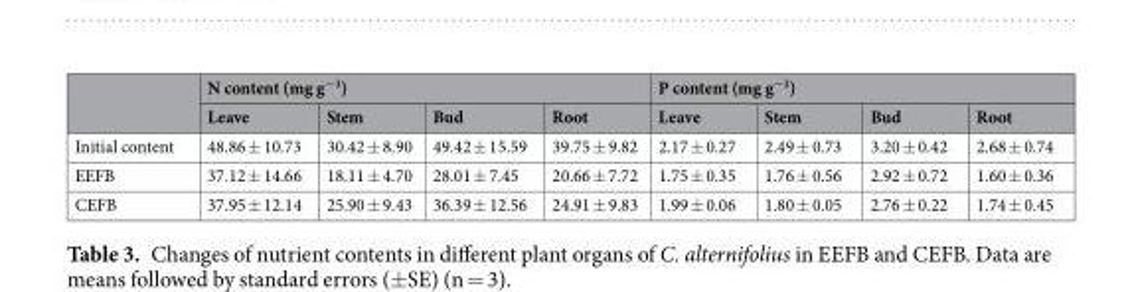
<table><thead><tr><td rowspan="2"></td><td colspan="4">N content (mg g<sup>−1</sup>)</td><td colspan="4">P content (mg g<sup>−1</sup>)</td></tr><tr><td>Leave</td><td>Stem</td><td>Bud</td><td>Root</td><td>Leave</td><td>Stem</td><td>Bud</td><td>Root</td></tr></thead><tbody><tr><td>Initial content</td><td>48.86 ± 10.73</td><td>30.42 ± 8.90</td><td>49.42 ± 15.59</td><td>39.75 ± 9.82</td><td>2.17 ± 0.27</td><td>2.49 ± 0.73</td><td>3.20 ± 0.42</td><td>2.68 ± 0.74</td></tr><tr><td>EEFB</td><td>37.12 ± 14.66</td><td>18.11 ± 4.70</td><td>28.01 ± 7.45</td><td>20.66 ± 7.72</td><td>1.75 ± 0.35</td><td>1.76 ± 0.56</td><td>2.92 ± 0.72</td><td>1.60 ± 0.36</td></tr><tr><td>CEFB</td><td>37.95 ± 12.14</td><td>25.90 ± 9.43</td><td>36.39 ± 12.56</td><td>24.91 ± 9.83</td><td>1.99 ± 0.06</td><td>1.80 ± 0.05</td><td>2.76 ± 0.22</td><td>1.74 ± 0.45</td></tr></tbody></table>